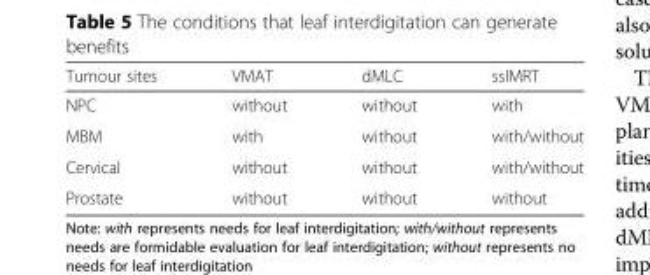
<table><thead><tr><td>Tumour sites</td><td>VMAT</td><td>dMLC</td><td>ssIMRT</td></tr></thead><tbody><tr><td>NPC</td><td>without</td><td>without</td><td>with</td></tr><tr><td>MBM</td><td>with</td><td>without</td><td>with/without</td></tr><tr><td>Cervical</td><td>without</td><td>without</td><td>with/without</td></tr><tr><td>Prostate</td><td>without</td><td>without</td><td>without</td></tr></tbody></table>